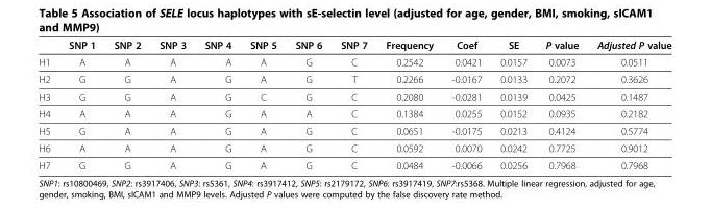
<table><thead><tr><td></td><td>SNP 1</td><td>SNP 2</td><td>SNP 3</td><td>SNP 4</td><td>SNP 5</td><td>SNP 6</td><td>SNP 7</td><td>Frequency</td><td>Coef</td><td>SE</td><td>P value</td><td>Adjusted P value</td></tr></thead><tbody><tr><td>H1</td><td>A</td><td>A</td><td>A</td><td>A</td><td>A</td><td>G</td><td>C</td><td>0.2542</td><td>0.0421</td><td>0.0157</td><td>0.0073</td><td>0.0511</td></tr><tr><td>H2</td><td>G</td><td>G</td><td>A</td><td>G</td><td>A</td><td>G</td><td>T</td><td>0.2266</td><td>-0.0167</td><td>0.0133</td><td>0.2072</td><td>0.3626</td></tr><tr><td>H3</td><td>G</td><td>G</td><td>A</td><td>G</td><td>C</td><td>G</td><td>C</td><td>0.2080</td><td>-0.0281</td><td>0.0139</td><td>0.0425</td><td>0.1487</td></tr><tr><td>H4</td><td>A</td><td>A</td><td>A</td><td>G</td><td>A</td><td>A</td><td>C</td><td>0.1384</td><td>0.0255</td><td>0.0152</td><td>0.0935</td><td>0.2182</td></tr><tr><td>H5</td><td>G</td><td>A</td><td>A</td><td>G</td><td>A</td><td>G</td><td>C</td><td>0.0651</td><td>-0.0175</td><td>0.0213</td><td>0.4124</td><td>0.5774</td></tr><tr><td>H6</td><td>A</td><td>A</td><td>A</td><td>G</td><td>A</td><td>G</td><td>C</td><td>0.0592</td><td>0.0070</td><td>0.0242</td><td>0.7725</td><td>0.9012</td></tr><tr><td>H7</td><td>G</td><td>G</td><td>A</td><td>G</td><td>A</td><td>G</td><td>C</td><td>0.0484</td><td>-0.0066</td><td>0.0256</td><td>0.7968</td><td>0.7968</td></tr></tbody></table>